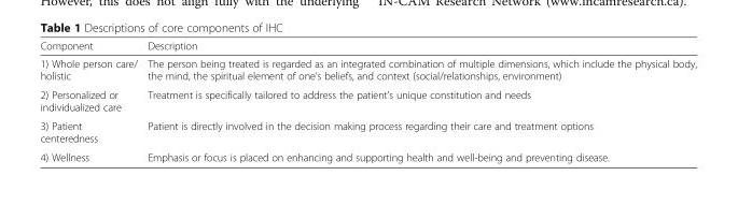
<table><thead><tr><td>Component</td><td>Description</td></tr></thead><tbody><tr><td>1) Whole person care/ holistic</td><td>The person being treated is regarded as an integrated combination of multiple dimensions, which include the physical body, the mind, the spiritual element of one’s beliefs, and context (social/relationships, environment)</td></tr><tr><td>2) Personalized or individualized care</td><td>Treatment is specifically tailored to address the patient’s unique constitution and needs</td></tr><tr><td>3) Patient centeredness</td><td>Patient is directly involved in the decision making process regarding their care and treatment options</td></tr><tr><td>4) Wellness</td><td>Emphasis or focus is placed on enhancing and supporting health and well-being and preventing disease.</td></tr></tbody></table>